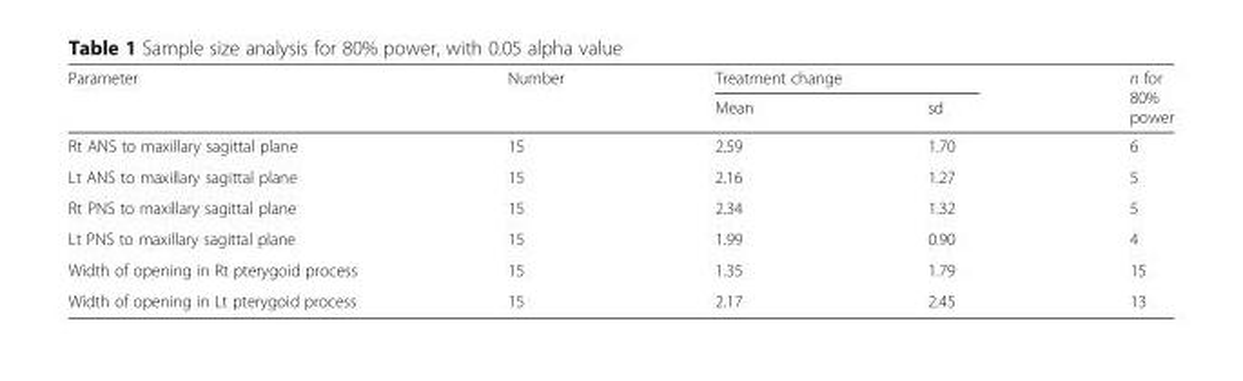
<table><thead><tr><td rowspan="2">Parameter</td><td rowspan="2">Number</td><td colspan="2">Treatment change</td><td rowspan="2">n for 80% power</td></tr><tr><td>Mean</td><td>sd</td></tr></thead><tbody><tr><td>Rt ANS to maxillary sagittal plane</td><td>15</td><td>2.59</td><td>1.70</td><td>6</td></tr><tr><td>Lt ANS to maxillary sagittal plane</td><td>15</td><td>2.16</td><td>1.27</td><td>5</td></tr><tr><td>Rt PNS to maxillary sagittal plane</td><td>15</td><td>2.34</td><td>1.32</td><td>5</td></tr><tr><td>Lt PNS to maxillary sagittal plane</td><td>15</td><td>1.99</td><td>0.90</td><td>4</td></tr><tr><td>Width of opening in Rt pterygoid process</td><td>15</td><td>1.35</td><td>1.79</td><td>15</td></tr><tr><td>Width of opening in Lt pterygoid process</td><td>15</td><td>2.17</td><td>2.45</td><td>13</td></tr></tbody></table>